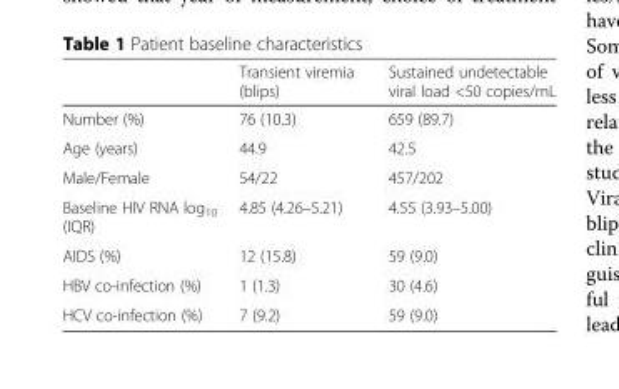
<table><thead><tr><td></td><td>Transient viremia (blips)</td><td>Sustained undetectable viral load &lt;50 copies/mL</td></tr></thead><tbody><tr><td>Number (%)</td><td>76 (10.3)</td><td>659 (89.7)</td></tr><tr><td>Age (years)</td><td>44.9</td><td>42.5</td></tr><tr><td>Male/Female</td><td>54/22</td><td>457/202</td></tr><tr><td>Baseline HIV RNA log<sub>10</sub> (IQR)</td><td>4.85 (4.26–5.21)</td><td>4.55 (3.93–5.00)</td></tr><tr><td>AIDS (%)</td><td>12 (15.8)</td><td>59 (9.0)</td></tr><tr><td>HBV co-infection (%)</td><td>1 (1.3)</td><td>30 (4.6)</td></tr><tr><td>HCV co-infection (%)</td><td>7 (9.2)</td><td>59 (9.0)</td></tr></tbody></table>